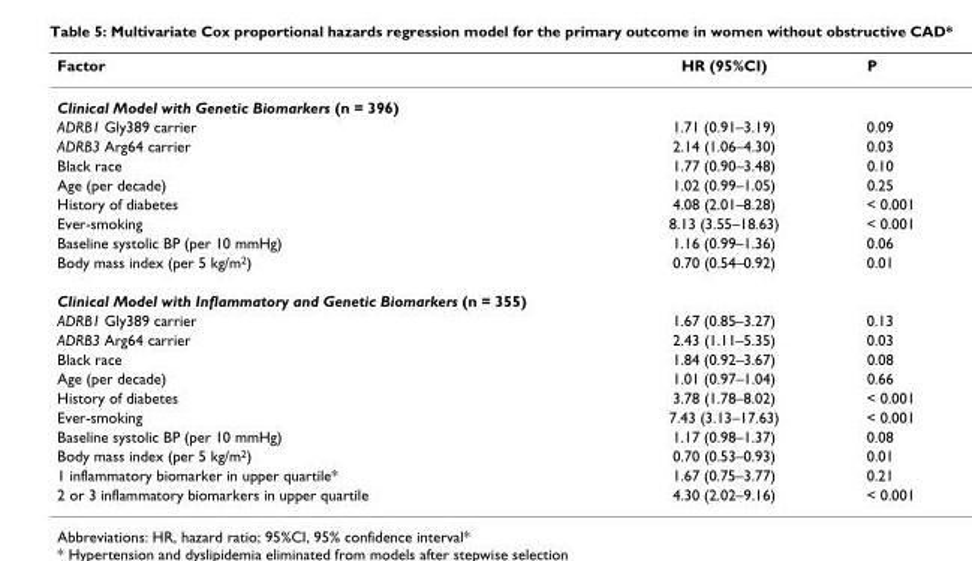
<table><thead><tr><td>Factor</td><td>HR (95%CI)</td><td>P</td></tr></thead><tbody><tr><td colspan="3">Clinical Model with Genetic Biomarkers (n = 396)</td></tr><tr><td>ADRB1 Gly389 carrier</td><td>1.71 (0.91–3.19)</td><td>0.09</td></tr><tr><td>ADRB3 Arg64 carrier</td><td>2.14 (1.06–4.30)</td><td>0.03</td></tr><tr><td>Black race</td><td>1.77 (0.90–3.48)</td><td>0.10</td></tr><tr><td>Age (per decade)</td><td>1.02 (0.99–1.05)</td><td>0.25</td></tr><tr><td>History of diabetes</td><td>4.08 (2.01–8.28)</td><td>&lt; 0.001</td></tr><tr><td>Ever-smoking</td><td>8.13 (3.55–18.63)</td><td>&lt; 0.001</td></tr><tr><td>Baseline systolic BP (per 10 mmHg)</td><td>1.16 (0.99–1.36)</td><td>0.06</td></tr><tr><td>Body mass index (per 5 kg/m<sup>2</sup>)</td><td>0.70 (0.54–0.92)</td><td>0.01</td></tr><tr><td colspan="3">Clinical Model with Inflammatory and Genetic Biomarkers (n = 355)</td></tr><tr><td>ADRB1 Gly389 carrier</td><td>1.67 (0.85–3.27)</td><td>0.13</td></tr><tr><td>ADRB3 Arg64 carrier</td><td>2.43 (1.11–5.35)</td><td>0.03</td></tr><tr><td>Black race</td><td>1.84 (0.92–3.67)</td><td>0.08</td></tr><tr><td>Age (per decade)</td><td>1.01 (0.97–1.04)</td><td>0.66</td></tr><tr><td>History of diabetes</td><td>3.78 (1.78–8.02)</td><td>&lt; 0.001</td></tr><tr><td>Ever-smoking</td><td>7.43 (3.13–17.63)</td><td>&lt; 0.001</td></tr><tr><td>Baseline systolic BP (per 10 mmHg)</td><td>1.17 (0.98–1.37)</td><td>0.08</td></tr><tr><td>Body mass index (per 5 kg/m<sup>2</sup>)</td><td>0.70 (0.53–0.93)</td><td>0.01</td></tr><tr><td>1 inflammatory biomarker in upper quartile*</td><td>1.67 (0.75–3.77)</td><td>0.21</td></tr><tr><td>2 or 3 inflammatory biomarkers in upper quartile</td><td>4.30 (2.02–9.16)</td><td>&lt; 0.001</td></tr></tbody></table>